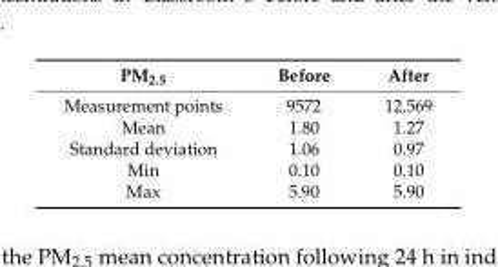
<table><thead><tr><td>PM<sub>2.5</sub></td><td>Before</td><td>After</td></tr></thead><tbody><tr><td>Measurement points</td><td>9572</td><td>12,569</td></tr><tr><td>Mean</td><td>1.80</td><td>1.27</td></tr><tr><td>Standard deviation</td><td>1.06</td><td>0.97</td></tr><tr><td>Min</td><td>0.10</td><td>0.10</td></tr><tr><td>Max</td><td>5.90</td><td>5.90</td></tr></tbody></table>